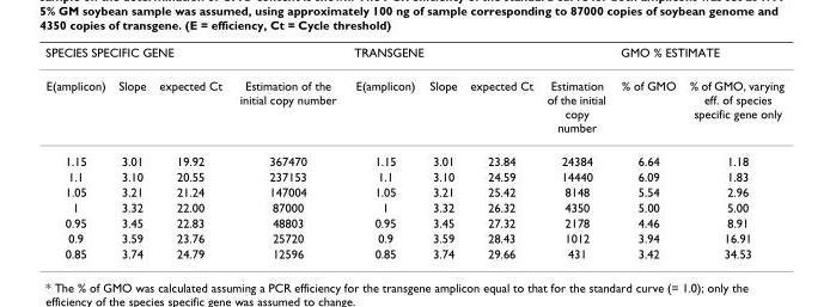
<table><thead><tr><td colspan="4">SPECIES SPECIFIC GENE</td><td colspan="4">TRANSGENE</td><td colspan="2">GMO % ESTIMATE</td></tr><tr><td>E(amplicon)</td><td>Slope</td><td>expected Ct</td><td>Estimation of the initial copy number</td><td>E(amplicon)</td><td>Slope</td><td>expected Ct</td><td>Estimation of the initial copy number</td><td>% of GMO</td><td>% of GMO, varying eff. of species specific gene only</td></tr></thead><tbody><tr><td>1.15</td><td>3.01</td><td>19.92</td><td>367470</td><td>1.15</td><td>3.01</td><td>23.84</td><td>24384</td><td>6.64</td><td>1.18</td></tr><tr><td>1.1</td><td>3.10</td><td>20.55</td><td>237153</td><td>1.1</td><td>3.10</td><td>24.59</td><td>14440</td><td>6.09</td><td>1.83</td></tr><tr><td>1.05</td><td>3.21</td><td>21.24</td><td>147004</td><td>1.05</td><td>3.21</td><td>25.42</td><td>8148</td><td>5.54</td><td>2.96</td></tr><tr><td>1</td><td>3.32</td><td>22.00</td><td>87000</td><td>1</td><td>3.32</td><td>26.32</td><td>4350</td><td>5.00</td><td>5.00</td></tr><tr><td>0.95</td><td>3.45</td><td>22.83</td><td>48803</td><td>0.95</td><td>3.45</td><td>27.32</td><td>2178</td><td>4.46</td><td>8.91</td></tr><tr><td>0.9</td><td>3.59</td><td>23.76</td><td>25720</td><td>0.9</td><td>3.59</td><td>28.43</td><td>1012</td><td>3.94</td><td>16.91</td></tr><tr><td>0.85</td><td>3.74</td><td>24.79</td><td>12596</td><td>0.85</td><td>3.74</td><td>29.66</td><td>431</td><td>3.42</td><td>34.53</td></tr></tbody></table>